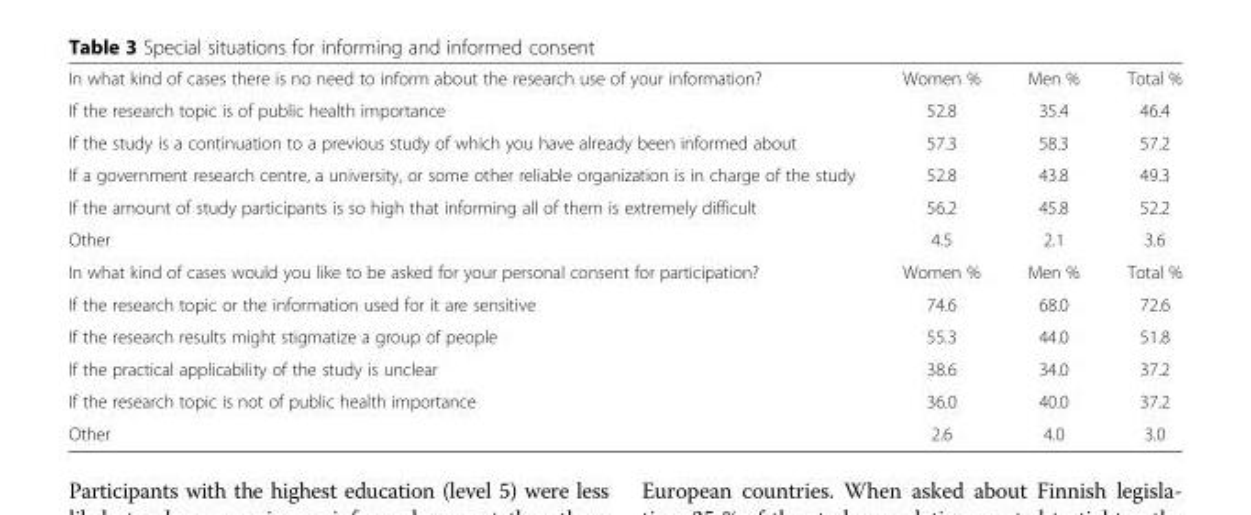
<table><tbody><tr><td>In what kind of cases there is no need to inform about the research use of your information?</td><td>Women %</td><td>Men %</td><td>Total %</td></tr><tr><td>If the research topic is of public health importance</td><td>52.8</td><td>35.4</td><td>46.4</td></tr><tr><td>If the study is a continuation to a previous study of which you have already been informed about</td><td>57.3</td><td>58.3</td><td>57.2</td></tr><tr><td>If a government research centre, a university, or some other reliable organization is in charge of the study</td><td>52.8</td><td>43.8</td><td>49.3</td></tr><tr><td>If the amount of study participants is so high that informing all of them is extremely difficult</td><td>56.2</td><td>45.8</td><td>52.2</td></tr><tr><td>Other</td><td>4.5</td><td>2.1</td><td>3.6</td></tr><tr><td>In what kind of cases would you like to be asked for your personal consent for participation?</td><td>Women %</td><td>Men %</td><td>Total %</td></tr><tr><td>If the research topic or the information used for it are sensitive</td><td>74.6</td><td>68.0</td><td>72.6</td></tr><tr><td>If the research results might stigmatize a group of people</td><td>55.3</td><td>44.0</td><td>51.8</td></tr><tr><td>If the practical applicability of the study is unclear</td><td>38.6</td><td>34.0</td><td>37.2</td></tr><tr><td>If the research topic is not of public health importance</td><td>36.0</td><td>40.0</td><td>37.2</td></tr><tr><td>Other</td><td>2.6</td><td>4.0</td><td>3.0</td></tr></tbody></table>